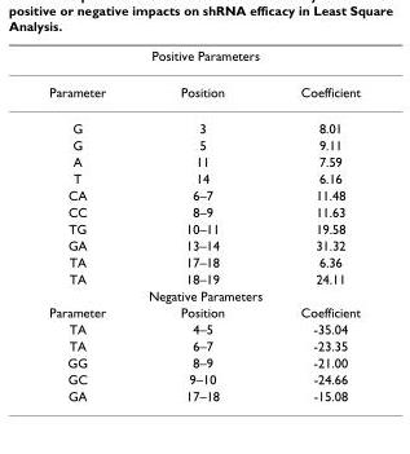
<table><thead><tr><td colspan="3">Positive Parameters</td></tr><tr><td>Parameter</td><td>Position</td><td>Coefficient</td></tr></thead><tbody><tr><td>G</td><td>3</td><td>8.01</td></tr><tr><td>G</td><td>5</td><td>9.11</td></tr><tr><td>A</td><td>11</td><td>7.59</td></tr><tr><td>T</td><td>14</td><td>6.16</td></tr><tr><td>CA</td><td>6–7</td><td>11.48</td></tr><tr><td>CC</td><td>8–9</td><td>11.63</td></tr><tr><td>TG</td><td>10–11</td><td>19.58</td></tr><tr><td>GA</td><td>13–14</td><td>31.32</td></tr><tr><td>TA</td><td>17–18</td><td>6.36</td></tr><tr><td>TA</td><td>18–19</td><td>24.11</td></tr><tr><td colspan="3">Negative Parameters</td></tr><tr><td>Parameter</td><td>Position</td><td>Coefficient</td></tr><tr><td>TA</td><td>4–5</td><td>-35.04</td></tr><tr><td>TA</td><td>6–7</td><td>-23.35</td></tr><tr><td>GG</td><td>8–9</td><td>-21.00</td></tr><tr><td>GC</td><td>9–10</td><td>-24.66</td></tr><tr><td>GA</td><td>17–18</td><td>-15.08</td></tr></tbody></table>